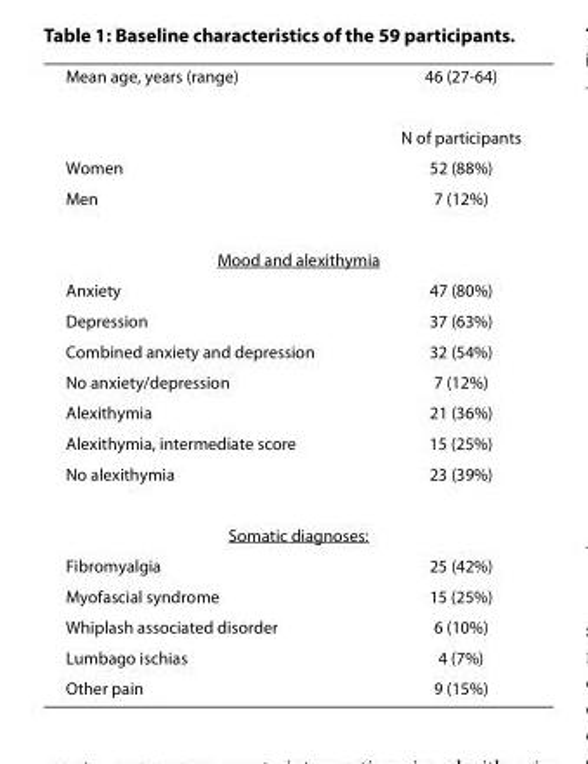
<table><tbody><tr><td rowspan="2">Mean age, years (range)</td><td>46 (27-64)</td></tr><tr><td>N of participants</td></tr><tr><td>Women</td><td>52 (88%)</td></tr><tr><td>Men</td><td>7 (12%)</td></tr><tr><td colspan="2">Mood and alexithymia</td></tr><tr><td>Anxiety</td><td>47 (80%)</td></tr><tr><td>Depression</td><td>37 (63%)</td></tr><tr><td>Combined anxiety and depression</td><td>32 (54%)</td></tr><tr><td>No anxiety/depression</td><td>7 (12%)</td></tr><tr><td>Alexithymia</td><td>21 (36%)</td></tr><tr><td>Alexithymia, intermediate score</td><td>15 (25%)</td></tr><tr><td>No alexithymia</td><td>23 (39%)</td></tr><tr><td colspan="2">Somatic diagnoses:</td></tr><tr><td>Fibromyalgia</td><td>25 (42%)</td></tr><tr><td>Myofascial syndrome</td><td>15 (25%)</td></tr><tr><td>Whiplash associated disorder</td><td>6 (10%)</td></tr><tr><td>Lumbago ischias</td><td>4 (7%)</td></tr><tr><td>Other pain</td><td>9 (15%)</td></tr></tbody></table>